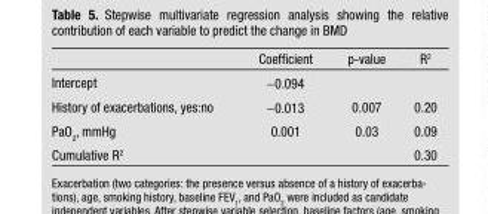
<table><thead><tr><td></td><td>Coeffi cient</td><td>p-value</td><td>R<sup>2</sup></td></tr></thead><tbody><tr><td>Intercept</td><td>−0.094</td><td></td><td></td></tr><tr><td>History of exacerbations, yes:no</td><td>−0.013</td><td>0.007</td><td>0.20</td></tr><tr><td>PaO<sub>2</sub>, mmHg</td><td>0.001</td><td>0.03</td><td>0.09</td></tr><tr><td>Cumulative R<sup>2</sup></td><td></td><td></td><td>0.30</td></tr></tbody></table>